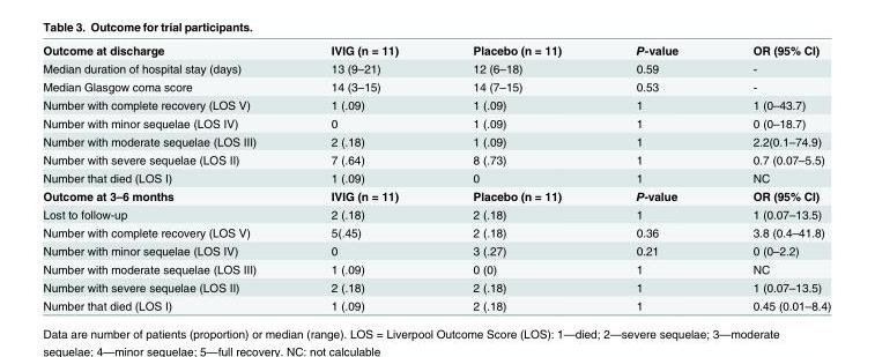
<table><tbody><tr><td>Outcome at discharge</td><td>IVIG (n = 11)</td><td>Placebo (n = 11)</td><td>P-value</td><td>OR (95% CI)</td></tr><tr><td>Median duration of hospital stay (days)</td><td>13 (9–21)</td><td>12 (6–18)</td><td>0.59</td><td>-</td></tr><tr><td>Median Glasgow coma score</td><td>14 (3–15)</td><td>14 (7–15)</td><td>0.53</td><td>-</td></tr><tr><td>Number with complete recovery (LOS V)</td><td>1 (.09)</td><td>1 (.09)</td><td>1</td><td>1 (0–43.7)</td></tr><tr><td>Number with minor sequelae (LOS IV)</td><td>0</td><td>1 (.09)</td><td>1</td><td>0 (0–18.7)</td></tr><tr><td>Number with moderate sequelae (LOS III)</td><td>2 (.18)</td><td>1 (.09)</td><td>1</td><td>2.2(0.1–74.9)</td></tr><tr><td>Number with severe sequelae (LOS II)</td><td>7 (.64)</td><td>8 (.73)</td><td>1</td><td>0.7 (0.07–5.5)</td></tr><tr><td>Number that died (LOS I)</td><td>1 (.09)</td><td>0</td><td>1</td><td>NC</td></tr><tr><td>Outcome at 3–6 months</td><td>IVIG (n = 11)</td><td>Placebo (n = 11)</td><td>P-value</td><td>OR (95% CI)</td></tr><tr><td>Lost to follow-up</td><td>2 (.18)</td><td>2 (.18)</td><td>1</td><td>1 (0.07–13.5)</td></tr><tr><td>Number with complete recovery (LOS V)</td><td>5(.45)</td><td>2 (.18)</td><td>0.36</td><td>3.8 (0.4–41.8)</td></tr><tr><td>Number with minor sequelae (LOS IV)</td><td>0</td><td>3 (.27)</td><td>0.21</td><td>0 (0–2.2)</td></tr><tr><td>Number with moderate sequelae (LOS III)</td><td>1 (.09)</td><td>0 (0)</td><td>1</td><td>NC</td></tr><tr><td>Number with severe sequelae (LOS II)</td><td>2 (.18)</td><td>2 (.18)</td><td>1</td><td>1 (0.07–13.5)</td></tr><tr><td>Number that died (LOS I)</td><td>1 (.09)</td><td>2 (.18)</td><td>1</td><td>0.45 (0.01–8.4)</td></tr></tbody></table>